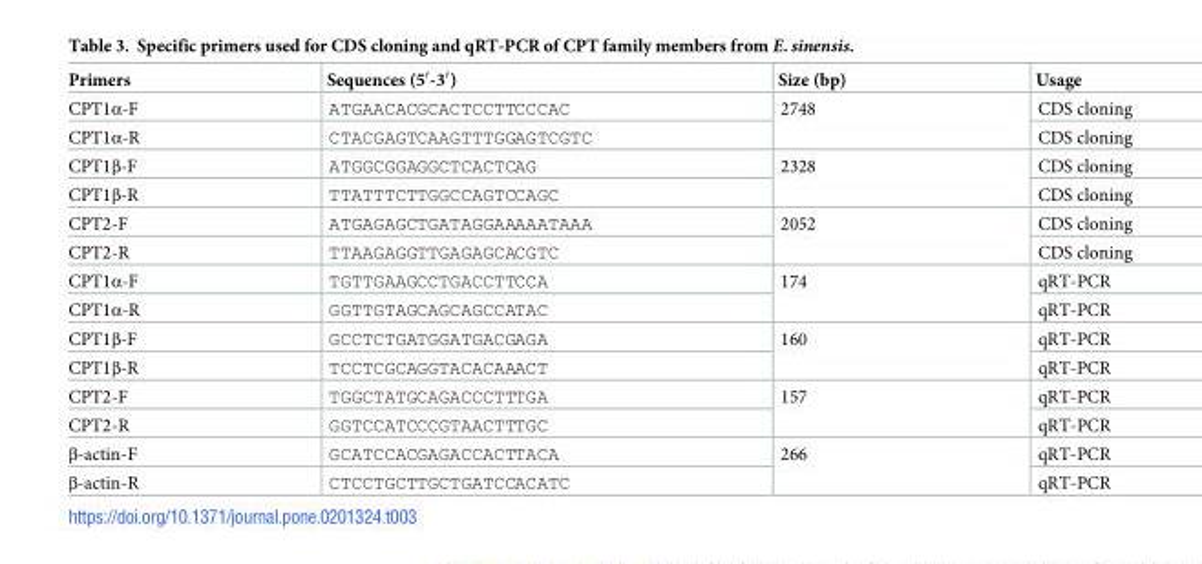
<table><thead><tr><td>Primers</td><td>Sequences (5′-3′)</td><td>Size (bp)</td><td>Usage</td></tr></thead><tbody><tr><td>CPT1α-F</td><td>ATGAACACGCACTCCTTCCCAC</td><td rowspan="2">2748</td><td>CDS cloning</td></tr><tr><td>CPT1α-R</td><td>CTACGAGTCAAGTTTGGAGTCGTC</td><td>CDS cloning</td></tr><tr><td>CPT1β-F</td><td>ATGGCGGAGGCTCACTCAG</td><td rowspan="2">2328</td><td>CDS cloning</td></tr><tr><td>CPT1β-R</td><td>TTATTTCTTGGCCAGTCCAGC</td><td>CDS cloning</td></tr><tr><td>CPT2-F</td><td>ATGAGAGCTGATAGGAAAAATAAA</td><td rowspan="2">2052</td><td>CDS cloning</td></tr><tr><td>CPT2-R</td><td>TTAAGAGGTTGAGAGCACGTC</td><td>CDS cloning</td></tr><tr><td>CPT1α-F</td><td>TGTTGAAGCCTGACCTTCCA</td><td rowspan="2">174</td><td>qRT-PCR</td></tr><tr><td>CPT1α-R</td><td>GGTTGTAGCAGCAGCCATAC</td><td>qRT-PCR</td></tr><tr><td>CPT1β-F</td><td>GCCTCTGATGGATGACGAGA</td><td rowspan="2">160</td><td>qRT-PCR</td></tr><tr><td>CPT1β-R</td><td>TCCTCGCAGGTACACAAACT</td><td>qRT-PCR</td></tr><tr><td>CPT2-F</td><td>TGGCTATGCAGACCCTTTGA</td><td rowspan="2">157</td><td>qRT-PCR</td></tr><tr><td>CPT2-R</td><td>GGTCCATCCCGTAACTTTGC</td><td>qRT-PCR</td></tr><tr><td>β-actin-F</td><td>GCATCCACGAGACCACTTACA</td><td rowspan="2">266</td><td>qRT-PCR</td></tr><tr><td>β-actin-R</td><td>CTCCTGCTTGCTGATCCACATC</td><td>qRT-PCR</td></tr></tbody></table>